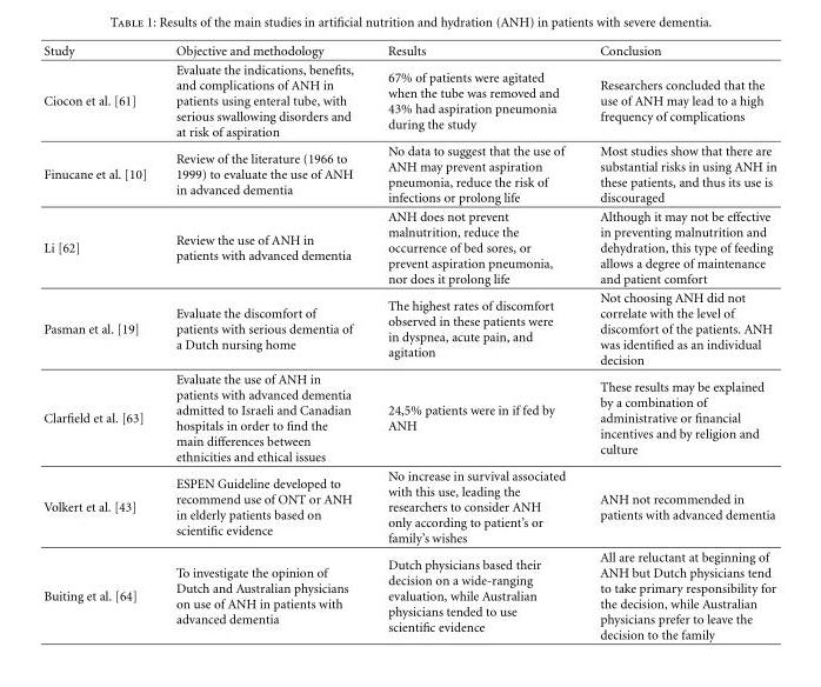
<table><thead><tr><td>Study</td><td>Objective and methodology</td><td>Results</td><td>Conclusion</td></tr></thead><tbody><tr><td>Ciocon et al. [61]</td><td>Evaluate the indications, benefits, and complications of ANH in patients using enteral tube, with serious swallowing disorders and at risk of aspiration</td><td>67% of patients were agitated when the tube was removed and 43% had aspiration pneumonia during the study</td><td>Researchers concluded that the use of ANH may lead to a high frequency of complications</td></tr><tr><td>Finucane et al. [10]</td><td>Review of the literature (1966 to 1999) to evaluate the use of ANH in advanced dementia</td><td>No data to suggest that the use of ANH may prevent aspiration pneumonia, reduce the risk of infections or prolong life</td><td>Most studies show that there are substantial risks in using ANH in these patients, and thus its use is discouraged</td></tr><tr><td>Li [62]</td><td>Review the use of ANH in patients with advanced dementia</td><td>ANH does not prevent malnutrition, reduce the occurrence of bed sores, or prevent aspiration pneumonia, nor does it prolong life</td><td>Although it may not be effective in preventing malnutrition and dehydration, this type of feeding allows a degree of maintenance and patient comfort</td></tr><tr><td>Pasman et al. [19]</td><td>Evaluate the discomfort of patients with serious dementia of a Dutch nursing home</td><td>The highest rates of discomfort observed in these patients were in dyspnea, acute pain, and agitation</td><td>Not choosing ANH did not correlate with the level of discomfort of the patients. ANH was identified as an individual decision</td></tr><tr><td>Clarfield et al. [63]</td><td>Evaluate the use of ANH in patients with advanced dementia admitted to Israeli and Canadian hospitals in order to find the main differences between ethnicities and ethical issues</td><td>24,5% patients were in if fed by ANH</td><td>These results may be explained by a combination of administrative or financial incentives and by religion and culture</td></tr><tr><td>Volkert et al. [43]</td><td>ESPEN Guideline developed to recommend use of ONT or ANH in elderly patients based on scientific evidence</td><td>No increase in survival associated with this use, leading the researchers to consider ANH only according to patient’s or family’s wishes</td><td>ANH not recommended in patients with advanced dementia</td></tr><tr><td>Buiting et al. [64]</td><td>To investigate the opinion of Dutch and Australian physicians on use of ANH in patients with advanced dementia</td><td>Dutch physicians based their decision on a wide-ranging evaluation, while Australian physicians tended to use scientific evidence</td><td>All are reluctant at beginning of ANH but Dutch physicians tend to take primary responsibility for the decision, while Australian physicians prefer to leave the decision to the family</td></tr></tbody></table>